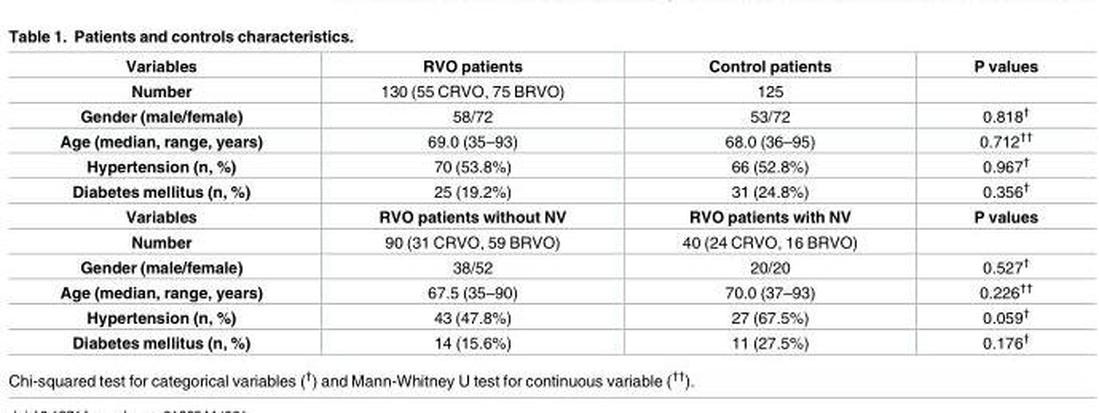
<table><tbody><tr><td>Variables</td><td>RVO patients</td><td>Control patients</td><td>P values</td></tr><tr><td>Number</td><td>130 (55 CRVO, 75 BRVO)</td><td>125</td><td></td></tr><tr><td>Gender (male/female)</td><td>58/72</td><td>53/72</td><td>0.818<sup>†</sup></td></tr><tr><td>Age (median, range, years)</td><td>69.0 (35–93)</td><td>68.0 (36–95)</td><td>0.712<sup>††</sup></td></tr><tr><td>Hypertension (n, %)</td><td>70 (53.8%)</td><td>66 (52.8%)</td><td>0.967<sup>†</sup></td></tr><tr><td>Diabetes mellitus (n, %)</td><td>25 (19.2%)</td><td>31 (24.8%)</td><td>0.356<sup>†</sup></td></tr><tr><td>Variables</td><td>RVO patients without NV</td><td>RVO patients with NV</td><td>P values</td></tr><tr><td>Number</td><td>90 (31 CRVO, 59 BRVO)</td><td>40 (24 CRVO, 16 BRVO)</td><td></td></tr><tr><td>Gender (male/female)</td><td>38/52</td><td>20/20</td><td>0.527<sup>†</sup></td></tr><tr><td>Age (median, range, years)</td><td>67.5 (35–90)</td><td>70.0 (37–93)</td><td>0.226<sup>††</sup></td></tr><tr><td>Hypertension (n, %)</td><td>43 (47.8%)</td><td>27 (67.5%)</td><td>0.059<sup>†</sup></td></tr><tr><td>Diabetes mellitus (n, %)</td><td>14 (15.6%)</td><td>11 (27.5%)</td><td>0.176<sup>†</sup></td></tr></tbody></table>